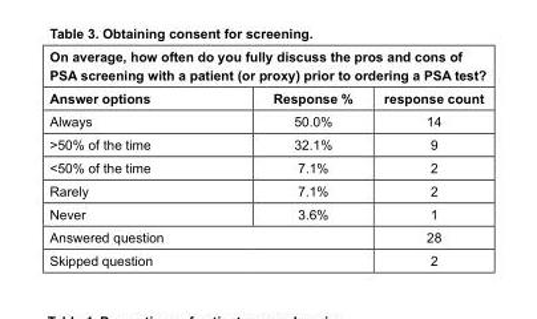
<table><thead><tr><td colspan="3">On average, how often do you fully discuss the pros and cons of PSA screening with a patient (or proxy) prior to ordering a PSA test?</td></tr><tr><td>Answer options</td><td>Response %</td><td>response count</td></tr></thead><tbody><tr><td>Always</td><td>50.0%</td><td>14</td></tr><tr><td>&gt;50% of the time</td><td>32.1%</td><td>9</td></tr><tr><td>&lt;50% of the time</td><td>7.1%</td><td>2</td></tr><tr><td>Rarely</td><td>7.1%</td><td>2</td></tr><tr><td>Never</td><td>3.6%</td><td>1</td></tr><tr><td colspan="2">Answered question</td><td>28</td></tr><tr><td colspan="2">Skipped question</td><td>2</td></tr></tbody></table>